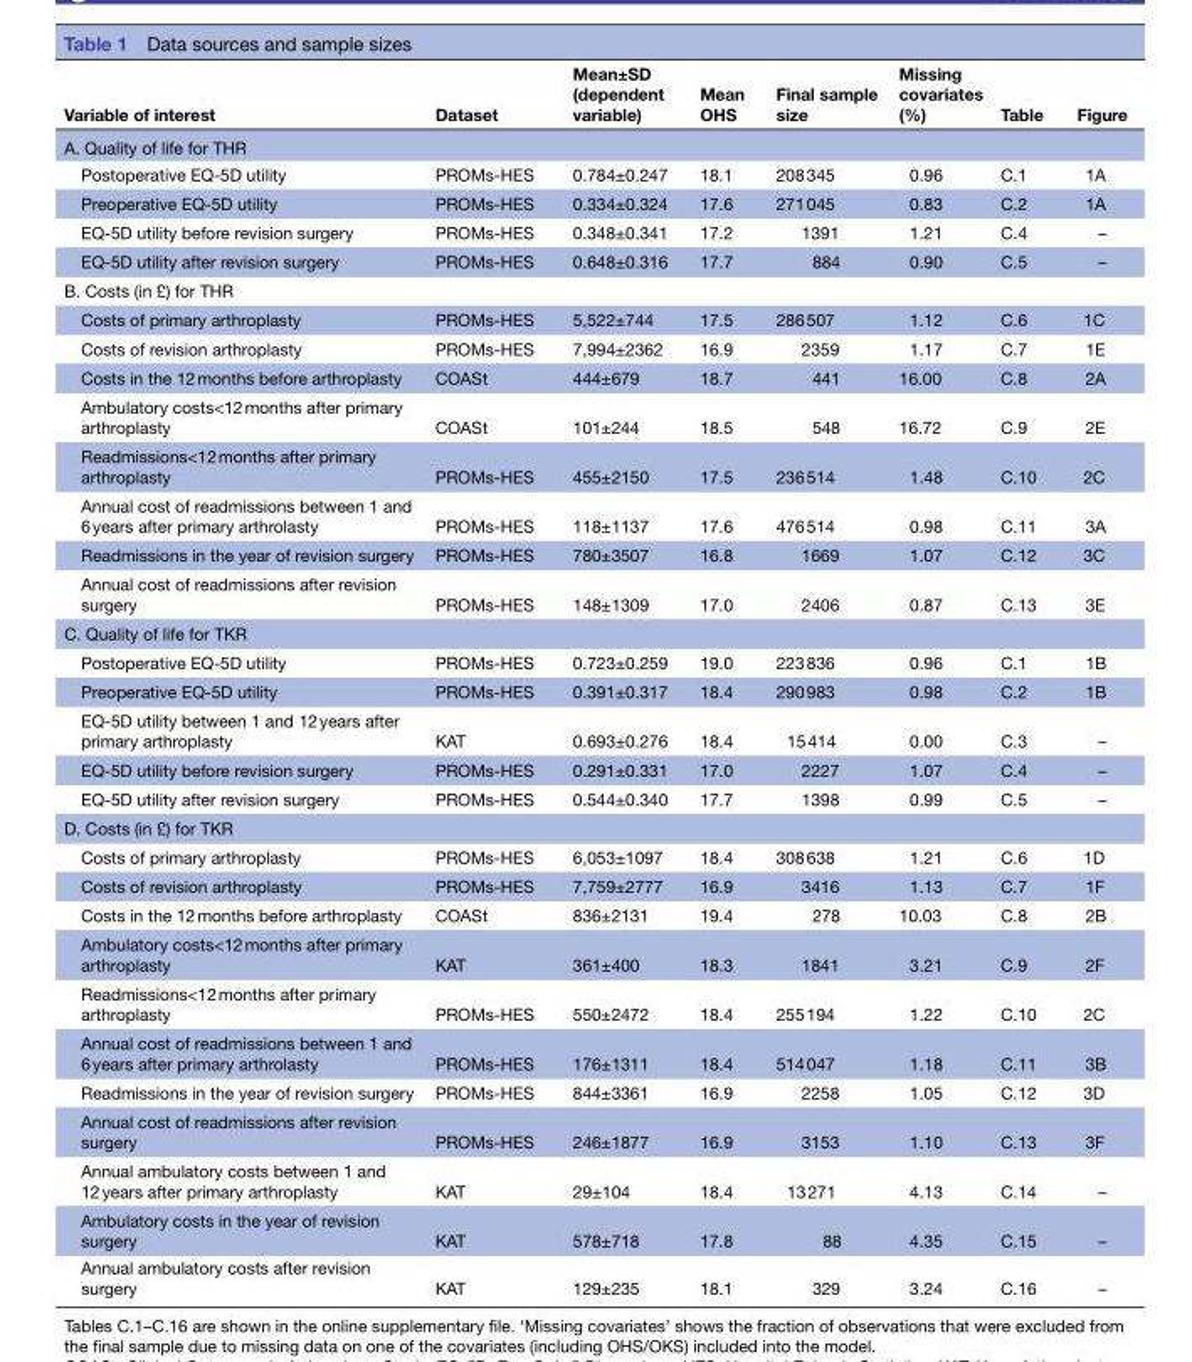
<table><thead><tr><td>Variable of interest</td><td>Dataset</td><td>Mean±SD (dependent variable)</td><td>Mean OHS</td><td>Final sample size</td><td>Missing covariates (%)</td><td>Table</td><td>Figure</td></tr></thead><tbody><tr><td colspan="8">A. Quality of life for THR</td></tr><tr><td>Postoperative EQ-5D utility</td><td>PROMs-HES</td><td>0.784±0.247</td><td>18.1</td><td>208 345</td><td>0.96</td><td>C.1</td><td>1A</td></tr><tr><td>Preoperative EQ-5D utility</td><td>PROMs-HES</td><td>0.334±0.324</td><td>17.6</td><td>271 045</td><td>0.83</td><td>C.2</td><td>1A</td></tr><tr><td>EQ-5D utility before revision surgery</td><td>PROMs-HES</td><td>0.348±0.341</td><td>17.2</td><td>1391</td><td>1.21</td><td>C.4</td><td>–</td></tr><tr><td>EQ-5D utility after revision surgery</td><td>PROMs-HES</td><td>0.648±0.316</td><td>17.7</td><td>884</td><td>0.90</td><td>C.5</td><td>–</td></tr><tr><td colspan="8">B. Costs (in £) for THR</td></tr><tr><td>Costs of primary arthroplasty</td><td>PROMs-HES</td><td>5,522±744</td><td>17.5</td><td>286 507</td><td>1.12</td><td>C.6</td><td>1C</td></tr><tr><td>Costs of revision arthroplasty</td><td>PROMs-HES</td><td>7,994±2362</td><td>16.9</td><td>2359</td><td>1.17</td><td>C.7</td><td>1E</td></tr><tr><td>Costs in the 12 months before arthroplasty</td><td>COASt</td><td>444±679</td><td>18.7</td><td>441</td><td>16.00</td><td>C.8</td><td>2A</td></tr><tr><td>Ambulatory costs&lt;12 months after primary arthroplasty</td><td>COASt</td><td>101±244</td><td>18.5</td><td>548</td><td>16.72</td><td>C.9</td><td>2E</td></tr><tr><td>Readmissions&lt;12 months after primary arthroplasty</td><td>PROMs-HES</td><td>455±2150</td><td>17.5</td><td>236 514</td><td>1.48</td><td>C.10</td><td>2C</td></tr><tr><td>Annual cost of readmissions between 1 and 6 years after primary arthrolasty</td><td>PROMs-HES</td><td>118±1137</td><td>17.6</td><td>476 514</td><td>0.98</td><td>C.11</td><td>3A</td></tr><tr><td>Readmissions in the year of revision surgery</td><td>PROMs-HES</td><td>780±3507</td><td>16.8</td><td>1669</td><td>1.07</td><td>C.12</td><td>3C</td></tr><tr><td>Annual cost of readmissions after revision surgery</td><td>PROMs-HES</td><td>148±1309</td><td>17.0</td><td>2406</td><td>0.87</td><td>C.13</td><td>3E</td></tr><tr><td colspan="8">C. Quality of life for TKR</td></tr><tr><td>Postoperative EQ-5D utility</td><td>PROMs-HES</td><td>0.723±0.259</td><td>19.0</td><td>223 836</td><td>0.96</td><td>C.1</td><td>1B</td></tr><tr><td>Preoperative EQ-5D utility</td><td>PROMs-HES</td><td>0.391±0.317</td><td>18.4</td><td>290 983</td><td>0.98</td><td>C.2</td><td>1B</td></tr><tr><td>EQ-5D utility between 1 and 12 years after primary arthroplasty</td><td>KAT</td><td>0.693±0.276</td><td>18.4</td><td>15 414</td><td>0.00</td><td>C.3</td><td>–</td></tr><tr><td>EQ-5D utility before revision surgery</td><td>PROMs-HES</td><td>0.291±0.331</td><td>17.0</td><td>2227</td><td>1.07</td><td>C.4</td><td>–</td></tr><tr><td>EQ-5D utility after revision surgery</td><td>PROMs-HES</td><td>0.544±0.340</td><td>17.7</td><td>1398</td><td>0.99</td><td>C.5</td><td>–</td></tr><tr><td colspan="8">D. Costs (in £) for TKR</td></tr><tr><td>Costs of primary arthroplasty</td><td>PROMs-HES</td><td>6,053±1097</td><td>18.4</td><td>308 638</td><td>1.21</td><td>C.6</td><td>1D</td></tr><tr><td>Costs of revision arthroplasty</td><td>PROMs-HES</td><td>7,759±2777</td><td>16.9</td><td>3416</td><td>1.13</td><td>C.7</td><td>1F</td></tr><tr><td>Costs in the 12 months before arthroplasty</td><td>COASt</td><td>836±2131</td><td>19.4</td><td>278</td><td>10.03</td><td>C.8</td><td>2B</td></tr><tr><td>Ambulatory costs&lt;12 months after primary arthroplasty</td><td>KAT</td><td>361±400</td><td>18.3</td><td>1841</td><td>3.21</td><td>C.9</td><td>2F</td></tr><tr><td>Readmissions&lt;12 months after primary arthroplasty</td><td>PROMs-HES</td><td>550±2472</td><td>18.4</td><td>255 194</td><td>1.22</td><td>C.10</td><td>2C</td></tr><tr><td>Annual cost of readmissions between 1 and 6 years after primary arthrolasty</td><td>PROMs-HES</td><td>176±1311</td><td>18.4</td><td>514 047</td><td>1.18</td><td>C.11</td><td>3B</td></tr><tr><td>Readmissions in the year of revision surgery</td><td>PROMs-HES</td><td>844±3361</td><td>16.9</td><td>2258</td><td>1.05</td><td>C.12</td><td>3D</td></tr><tr><td>Annual cost of readmissions after revision surgery</td><td>PROMs-HES</td><td>246±1877</td><td>16.9</td><td>3153</td><td>1.10</td><td>C.13</td><td>3F</td></tr><tr><td>Annual ambulatory costs between 1 and 12 years after primary arthroplasty</td><td>KAT</td><td>29±104</td><td>18.4</td><td>13 271</td><td>4.13</td><td>C.14</td><td>–</td></tr><tr><td>Ambulatory costs in the year of revision surgery</td><td>KAT</td><td>578±718</td><td>17.8</td><td>88</td><td>4.35</td><td>C.15</td><td>–</td></tr><tr><td>Annual ambulatory costs after revision surgery</td><td>KAT</td><td>129±235</td><td>18.1</td><td>329</td><td>3.24</td><td>C.16</td><td>–</td></tr></tbody></table>